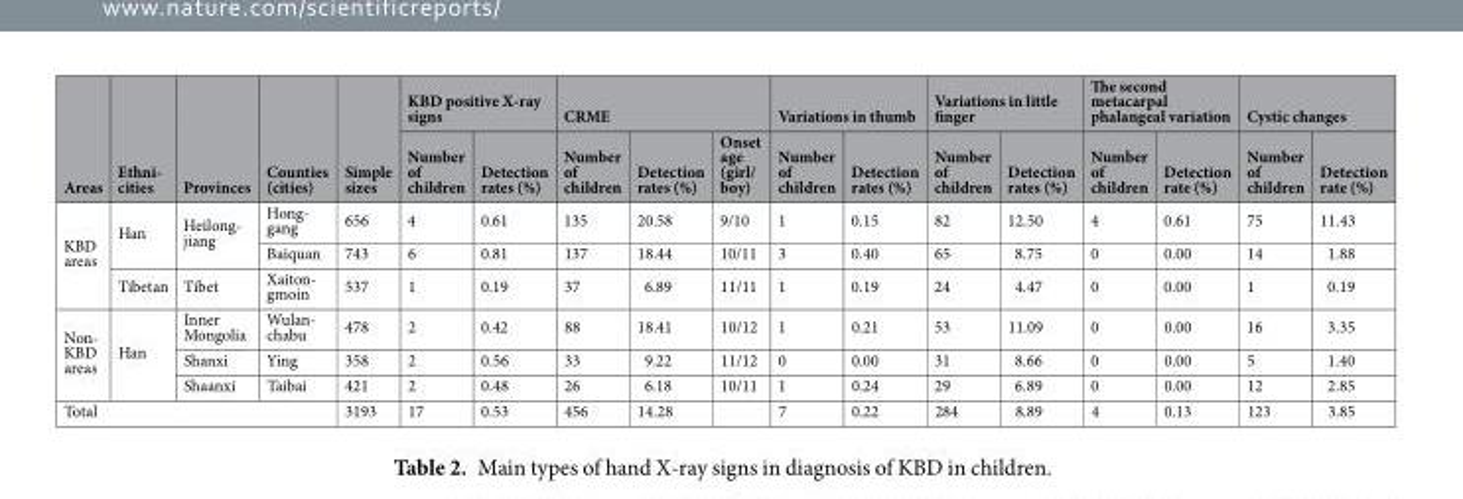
<table><thead><tr><td rowspan="2">Areas</td><td rowspan="2">Ethni- cities</td><td rowspan="2">Provinces</td><td rowspan="2">Counties (cities)</td><td rowspan="2">Simple sizes</td><td colspan="2">KBD positive X-ray signs</td><td colspan="3">CRME</td><td colspan="2">Variations in thumb</td><td colspan="2">Variations in little finger</td><td colspan="2">The second metacarpal phalangeal variation</td><td colspan="2">Cystic changes</td></tr><tr><td>Number of children</td><td>Detection rates (%)</td><td>Number of children</td><td>Detection rates (%)</td><td>Onset age (girl/ boy)</td><td>Number of children</td><td>Detection rates (%)</td><td>Number of children</td><td>Detection rates (%)</td><td>Number of children</td><td>Detection rate (%)</td><td>Number of children</td><td>Detection rate (%)</td></tr></thead><tbody><tr><td rowspan="3">KBD areas</td><td rowspan="2">Han</td><td rowspan="2">Heilong- jiang</td><td>Hong- gang</td><td>656</td><td>4</td><td>0.61</td><td>135</td><td>20.58</td><td>9/10</td><td>1</td><td>0.15</td><td>82</td><td>12.50</td><td>4</td><td>0.61</td><td>75</td><td>11.43</td></tr><tr><td>Baiquan</td><td>743</td><td>6</td><td>0.81</td><td>137</td><td>18.44</td><td>10/11</td><td>3</td><td>0.40</td><td>65</td><td>8.75</td><td>0</td><td>0.00</td><td>14</td><td>1.88</td></tr><tr><td>Tibetan</td><td>Tibet</td><td>Xaiton- gmoin</td><td>537</td><td>1</td><td>0.19</td><td>37</td><td>6.89</td><td>11/11</td><td>1</td><td>0.19</td><td>24</td><td>4.47</td><td>0</td><td>0.00</td><td>1</td><td>0.19</td></tr><tr><td rowspan="3">Non- KBD areas</td><td rowspan="3">Han</td><td>Inner Mongolia</td><td>Wulan- chabu</td><td>478</td><td>2</td><td>0.42</td><td>88</td><td>18.41</td><td>10/12</td><td>1</td><td>0.21</td><td>53</td><td>11.09</td><td>0</td><td>0.00</td><td>16</td><td>3.35</td></tr><tr><td>Shanxi</td><td>Ying</td><td>358</td><td>2</td><td>0.56</td><td>33</td><td>9.22</td><td>11/12</td><td>0</td><td>0.00</td><td>31</td><td>8.66</td><td>0</td><td>0.00</td><td>5</td><td>1.40</td></tr><tr><td>Shaanxi</td><td>Taibai</td><td>421</td><td>2</td><td>0.48</td><td>26</td><td>6.18</td><td>10/11</td><td>1</td><td>0.24</td><td>29</td><td>6.89</td><td>0</td><td>0.00</td><td>12</td><td>2.85</td></tr><tr><td colspan="4">Total</td><td>3193</td><td>17</td><td>0.53</td><td>456</td><td>14.28</td><td></td><td>7</td><td>0.22</td><td>284</td><td>8.89</td><td>4</td><td>0.13</td><td>123</td><td>3.85</td></tr></tbody></table>